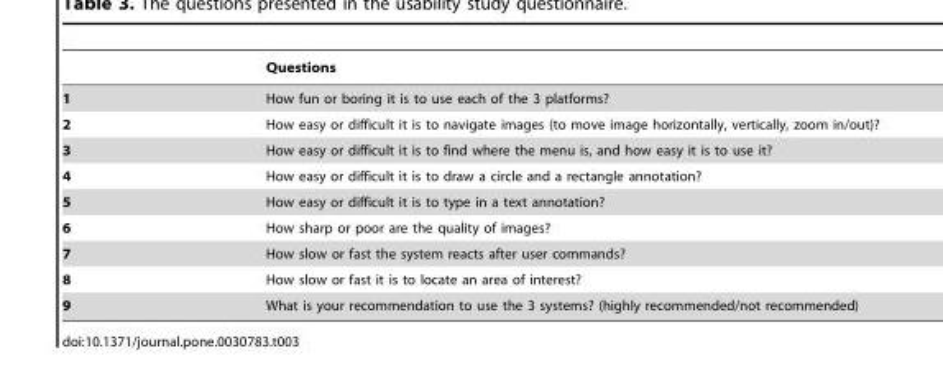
<table><thead><tr><td></td><td>Questions</td></tr></thead><tbody><tr><td>1</td><td>How fun or boring it is to use each of the 3 platforms?</td></tr><tr><td>2</td><td>How easy or difficult it is to navigate images (to move image horizontally, vertically, zoom in/out)?</td></tr><tr><td>3</td><td>How easy or difficult it is to find where the menu is, and how easy it is to use it?</td></tr><tr><td>4</td><td>How easy or difficult it is to draw a circle and a rectangle annotation?</td></tr><tr><td>5</td><td>How easy or difficult it is to type in a text annotation?</td></tr><tr><td>6</td><td>How sharp or poor are the quality of images?</td></tr><tr><td>7</td><td>How slow or fast the system reacts after user commands?</td></tr><tr><td>8</td><td>How slow or fast it is to locate an area of interest?</td></tr><tr><td>9</td><td>What is your recommendation to use the 3 systems? (highly recommended/not recommended)</td></tr></tbody></table>